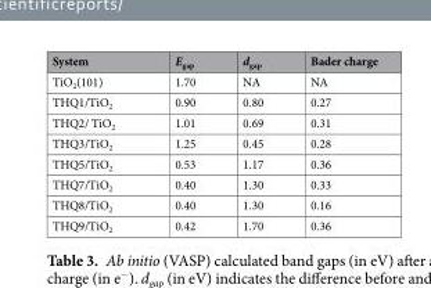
<table><thead><tr><td>System</td><td>E<sub>gap</sub></td><td>d<sub>gap</sub></td><td>Bader charge</td></tr></thead><tbody><tr><td>TiO<sub>2</sub>(101)</td><td>1.70</td><td>NA</td><td>NA</td></tr><tr><td>THQ1/TiO<sub>2</sub></td><td>0.90</td><td>0.80</td><td>0.27</td></tr><tr><td>THQ2/ TiO<sub>2</sub></td><td>1.01</td><td>0.69</td><td>0.31</td></tr><tr><td>THQ3/TiO<sub>2</sub></td><td>1.25</td><td>0.45</td><td>0.28</td></tr><tr><td>THQ5/TiO<sub>2</sub></td><td>0.53</td><td>1.17</td><td>0.36</td></tr><tr><td>THQ7/TiO<sub>2</sub></td><td>0.40</td><td>1.30</td><td>0.33</td></tr><tr><td>THQ8/TiO<sub>2</sub></td><td>0.40</td><td>1.30</td><td>0.16</td></tr><tr><td>THQ9/TiO<sub>2</sub></td><td>0.42</td><td>1.70</td><td>0.36</td></tr></tbody></table>